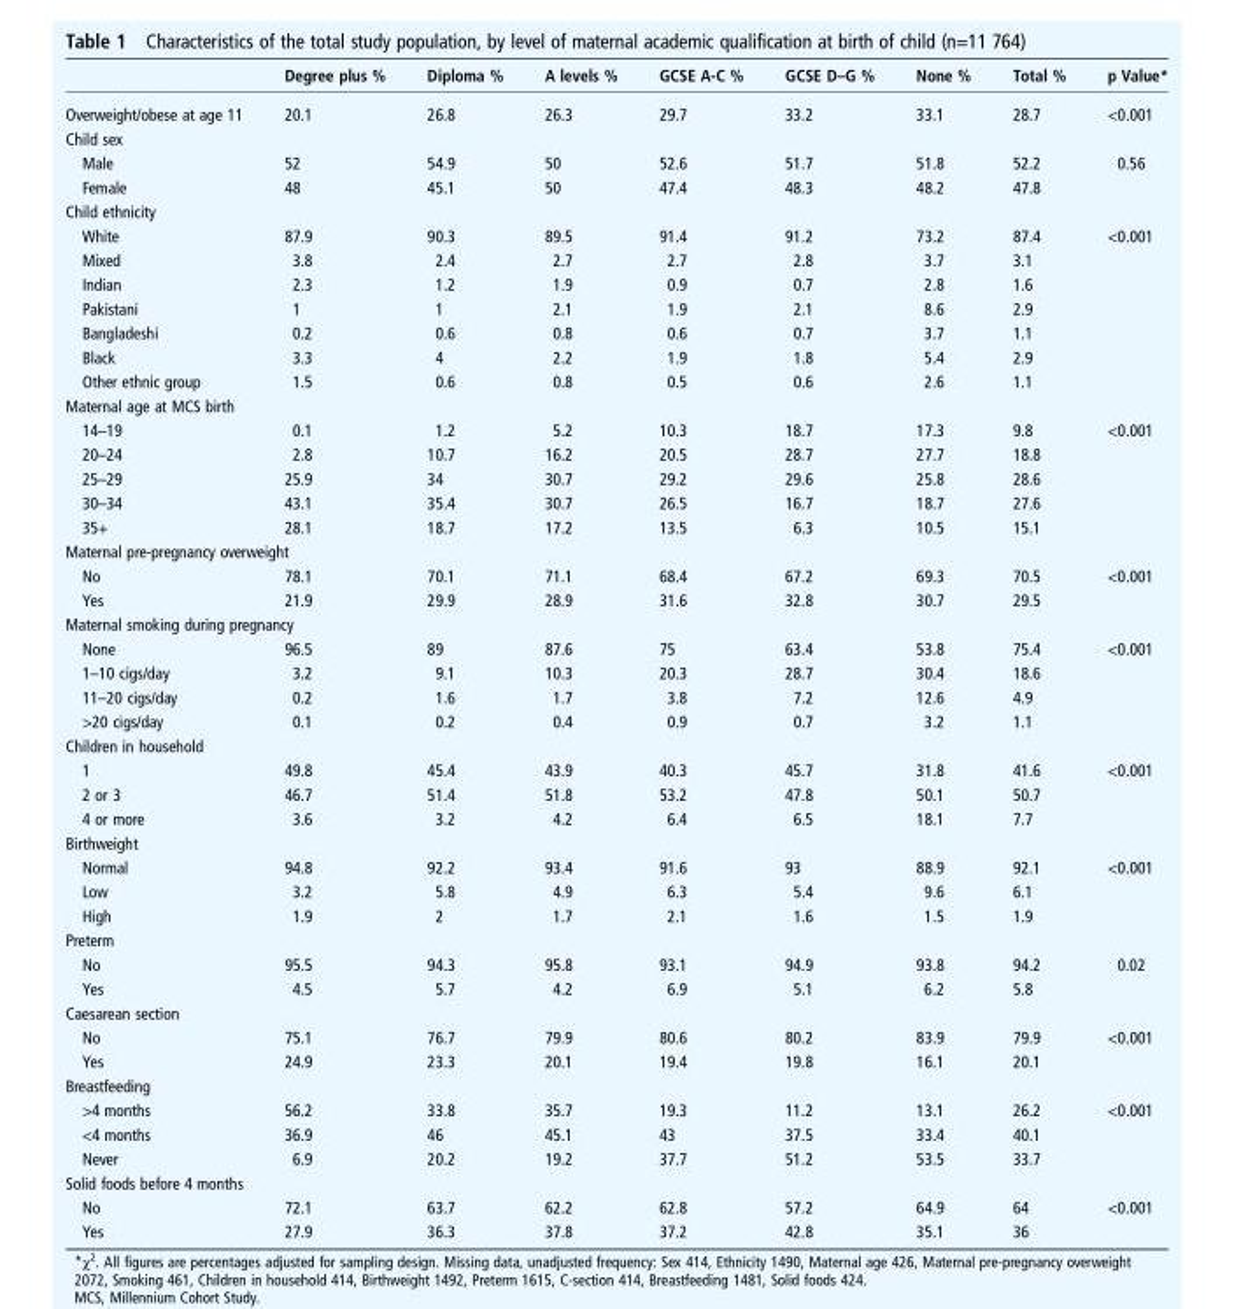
<table><thead><tr><td></td><td>Degree plus %</td><td>Diploma %</td><td>A levels %</td><td>GCSE A-C %</td><td>GCSE D–G %</td><td>None %</td><td>Total %</td><td>p Value*</td></tr></thead><tbody><tr><td>Overweight/obese at age 11</td><td>20.1</td><td>26.8</td><td>26.3</td><td>29.7</td><td>33.2</td><td>33.1</td><td>28.7</td><td>&lt;0.001</td></tr><tr><td colspan="9">Child sex</td></tr><tr><td>Male</td><td>52</td><td>54.9</td><td>50</td><td>52.6</td><td>51.7</td><td>51.8</td><td>52.2</td><td rowspan="2">0.56</td></tr><tr><td>Female</td><td>48</td><td>45.1</td><td>50</td><td>47.4</td><td>48.3</td><td>48.2</td><td>47.8</td></tr><tr><td colspan="9">Child ethnicity</td></tr><tr><td>White</td><td>87.9</td><td>90.3</td><td>89.5</td><td>91.4</td><td>91.2</td><td>73.2</td><td>87.4</td><td rowspan="7">&lt;0.001</td></tr><tr><td>Mixed</td><td>3.8</td><td>2.4</td><td>2.7</td><td>2.7</td><td>2.8</td><td>3.7</td><td>3.1</td></tr><tr><td>Indian</td><td>2.3</td><td>1.2</td><td>1.9</td><td>0.9</td><td>0.7</td><td>2.8</td><td>1.6</td></tr><tr><td>Pakistani</td><td>1</td><td>1</td><td>2.1</td><td>1.9</td><td>2.1</td><td>8.6</td><td>2.9</td></tr><tr><td>Bangladeshi</td><td>0.2</td><td>0.6</td><td>0.8</td><td>0.6</td><td>0.7</td><td>3.7</td><td>1.1</td></tr><tr><td>Black</td><td>3.3</td><td>4</td><td>2.2</td><td>1.9</td><td>1.8</td><td>5.4</td><td>2.9</td></tr><tr><td>Other ethnic group</td><td>1.5</td><td>0.6</td><td>0.8</td><td>0.5</td><td>0.6</td><td>2.6</td><td>1.1</td></tr><tr><td colspan="9">Maternal age at MCS birth</td></tr><tr><td>14–19</td><td>0.1</td><td>1.2</td><td>5.2</td><td>10.3</td><td>18.7</td><td>17.3</td><td>9.8</td><td rowspan="5">&lt;0.001</td></tr><tr><td>20–24</td><td>2.8</td><td>10.7</td><td>16.2</td><td>20.5</td><td>28.7</td><td>27.7</td><td>18.8</td></tr><tr><td>25–29</td><td>25.9</td><td>34</td><td>30.7</td><td>29.2</td><td>29.6</td><td>25.8</td><td>28.6</td></tr><tr><td>30–34</td><td>43.1</td><td>35.4</td><td>30.7</td><td>26.5</td><td>16.7</td><td>18.7</td><td>27.6</td></tr><tr><td>35+</td><td>28.1</td><td>18.7</td><td>17.2</td><td>13.5</td><td>6.3</td><td>10.5</td><td>15.1</td></tr><tr><td colspan="9">Maternal pre-pregnancy overweight</td></tr><tr><td>No</td><td>78.1</td><td>70.1</td><td>71.1</td><td>68.4</td><td>67.2</td><td>69.3</td><td>70.5</td><td rowspan="2">&lt;0.001</td></tr><tr><td>Yes</td><td>21.9</td><td>29.9</td><td>28.9</td><td>31.6</td><td>32.8</td><td>30.7</td><td>29.5</td></tr><tr><td colspan="9">Maternal smoking during pregnancy</td></tr><tr><td>None</td><td>96.5</td><td>89</td><td>87.6</td><td>75</td><td>63.4</td><td>53.8</td><td>75.4</td><td rowspan="4">&lt;0.001</td></tr><tr><td>1–10 cigs/day</td><td>3.2</td><td>9.1</td><td>10.3</td><td>20.3</td><td>28.7</td><td>30.4</td><td>18.6</td></tr><tr><td>11–20 cigs/day</td><td>0.2</td><td>1.6</td><td>1.7</td><td>3.8</td><td>7.2</td><td>12.6</td><td>4.9</td></tr><tr><td>&gt;20 cigs/day</td><td>0.1</td><td>0.2</td><td>0.4</td><td>0.9</td><td>0.7</td><td>3.2</td><td>1.1</td></tr><tr><td colspan="9">Children in household</td></tr><tr><td>1</td><td>49.8</td><td>45.4</td><td>43.9</td><td>40.3</td><td>45.7</td><td>31.8</td><td>41.6</td><td rowspan="3">&lt;0.001</td></tr><tr><td>2 or 3</td><td>46.7</td><td>51.4</td><td>51.8</td><td>53.2</td><td>47.8</td><td>50.1</td><td>50.7</td></tr><tr><td>4 or more</td><td>3.6</td><td>3.2</td><td>4.2</td><td>6.4</td><td>6.5</td><td>18.1</td><td>7.7</td></tr><tr><td colspan="9">Birthweight</td></tr><tr><td>Normal</td><td>94.8</td><td>92.2</td><td>93.4</td><td>91.6</td><td>93</td><td>88.9</td><td>92.1</td><td rowspan="3">&lt;0.001</td></tr><tr><td>Low</td><td>3.2</td><td>5.8</td><td>4.9</td><td>6.3</td><td>5.4</td><td>9.6</td><td>6.1</td></tr><tr><td>High</td><td>1.9</td><td>2</td><td>1.7</td><td>2.1</td><td>1.6</td><td>1.5</td><td>1.9</td></tr><tr><td colspan="9">Preterm</td></tr><tr><td>No</td><td>95.5</td><td>94.3</td><td>95.8</td><td>93.1</td><td>94.9</td><td>93.8</td><td>94.2</td><td rowspan="2">0.02</td></tr><tr><td>Yes</td><td>4.5</td><td>5.7</td><td>4.2</td><td>6.9</td><td>5.1</td><td>6.2</td><td>5.8</td></tr><tr><td colspan="9">Caesarean section</td></tr><tr><td>No</td><td>75.1</td><td>76.7</td><td>79.9</td><td>80.6</td><td>80.2</td><td>83.9</td><td>79.9</td><td rowspan="2">&lt;0.001</td></tr><tr><td>Yes</td><td>24.9</td><td>23.3</td><td>20.1</td><td>19.4</td><td>19.8</td><td>16.1</td><td>20.1</td></tr><tr><td colspan="9">Breastfeeding</td></tr><tr><td>&gt;4 months</td><td>56.2</td><td>33.8</td><td>35.7</td><td>19.3</td><td>11.2</td><td>13.1</td><td>26.2</td><td rowspan="3">&lt;0.001</td></tr><tr><td>&lt;4 months</td><td>36.9</td><td>46</td><td>45.1</td><td>43</td><td>37.5</td><td>33.4</td><td>40.1</td></tr><tr><td>Never</td><td>6.9</td><td>20.2</td><td>19.2</td><td>37.7</td><td>51.2</td><td>53.5</td><td>33.7</td></tr><tr><td colspan="9">Solid foods before 4 months</td></tr><tr><td>No</td><td>72.1</td><td>63.7</td><td>62.2</td><td>62.8</td><td>57.2</td><td>64.9</td><td>64</td><td rowspan="2">&lt;0.001</td></tr><tr><td>Yes</td><td>27.9</td><td>36.3</td><td>37.8</td><td>37.2</td><td>42.8</td><td>35.1</td><td>36</td></tr></tbody></table>